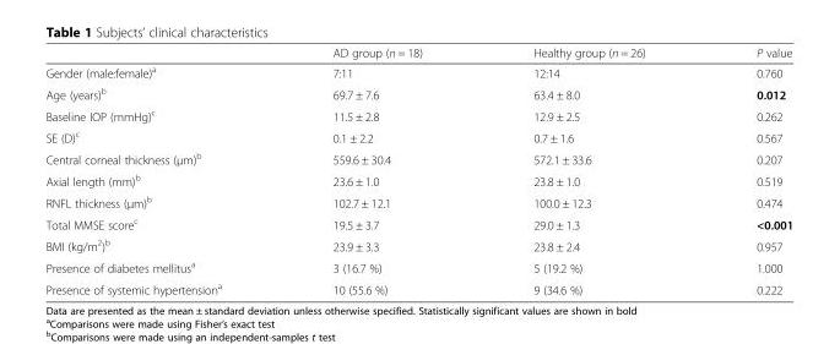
<table><thead><tr><td></td><td>AD group (n = 18)</td><td>Healthy group (n = 26)</td><td>P value</td></tr></thead><tbody><tr><td>Gender (male:female)<sup>a</sup></td><td>7:11</td><td>12:14</td><td>0.760</td></tr><tr><td>Age (years)<sup>b</sup></td><td>69.7 ± 7.6</td><td>63.4 ± 8.0</td><td>0.012</td></tr><tr><td>Baseline IOP (mmHg)<sup>c</sup></td><td>11.5 ± 2.8</td><td>12.9 ± 2.5</td><td>0.262</td></tr><tr><td>SE (D)<sup>c</sup></td><td>0.1 ± 2.2</td><td>0.7 ± 1.6</td><td>0.567</td></tr><tr><td>Central corneal thickness (μm)<sup>b</sup></td><td>559.6 ± 30.4</td><td>572.1 ± 33.6</td><td>0.207</td></tr><tr><td>Axial length (mm)<sup>b</sup></td><td>23.6 ± 1.0</td><td>23.8 ± 1.0</td><td>0.519</td></tr><tr><td>RNFL thickness (μm)<sup>b</sup></td><td>102.7 ± 12.1</td><td>100.0 ± 12.3</td><td>0.474</td></tr><tr><td>Total MMSE score<sup>c</sup></td><td>19.5 ± 3.7</td><td>29.0 ± 1.3</td><td>&lt;0.001</td></tr><tr><td>BMI (kg/m<sup>2</sup>)<sup>b</sup></td><td>23.9 ± 3.3</td><td>23.8 ± 2.4</td><td>0.957</td></tr><tr><td>Presence of diabetes mellitus<sup>a</sup></td><td>3 (16.7 %)</td><td>5 (19.2 %)</td><td>1.000</td></tr><tr><td>Presence of systemic hypertension<sup>a</sup></td><td>10 (55.6 %)</td><td>9 (34.6 %)</td><td>0.222</td></tr></tbody></table>